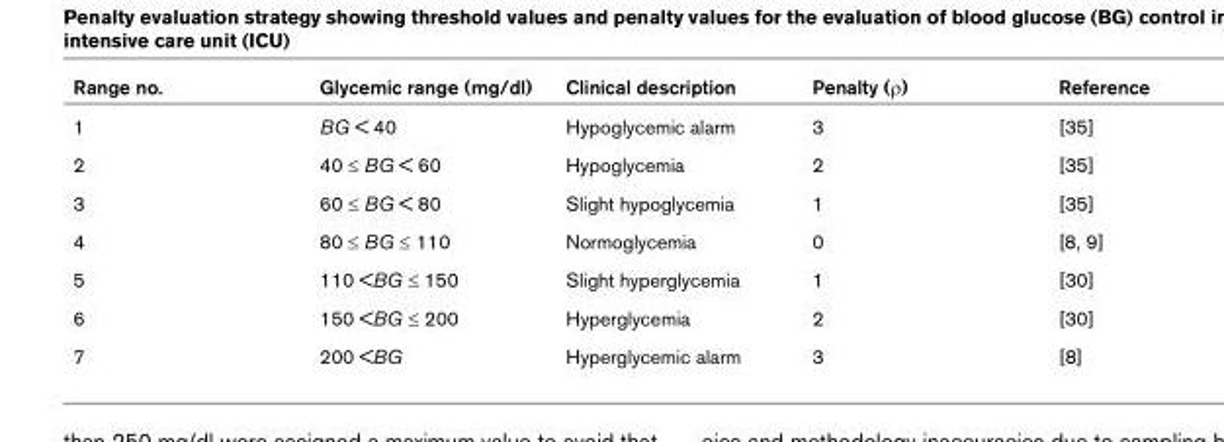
<table><thead><tr><td>Range no.</td><td>Glycemic range (mg/dl)</td><td>Clinical description</td><td>Penalty (ρ)</td><td>Reference</td></tr></thead><tbody><tr><td>1</td><td>BG &lt; 40</td><td>Hypoglycemic alarm</td><td>3</td><td>[35]</td></tr><tr><td>2</td><td>40 ≤ BG &lt; 60</td><td>Hypoglycemia</td><td>2</td><td>[35]</td></tr><tr><td>3</td><td>60 ≤ BG &lt; 80</td><td>Slight hypoglycemia</td><td>1</td><td>[35]</td></tr><tr><td>4</td><td>80 ≤ BG ≤ 110</td><td>Normoglycemia</td><td>0</td><td>[8, 9]</td></tr><tr><td>5</td><td>110 &lt;BG ≤ 150</td><td>Slight hyperglycemia</td><td>1</td><td>[30]</td></tr><tr><td>6</td><td>150 &lt;BG ≤ 200</td><td>Hyperglycemia</td><td>2</td><td>[30]</td></tr><tr><td>7</td><td>200 &lt;BG</td><td>Hyperglycemic alarm</td><td>3</td><td>[8]</td></tr></tbody></table>